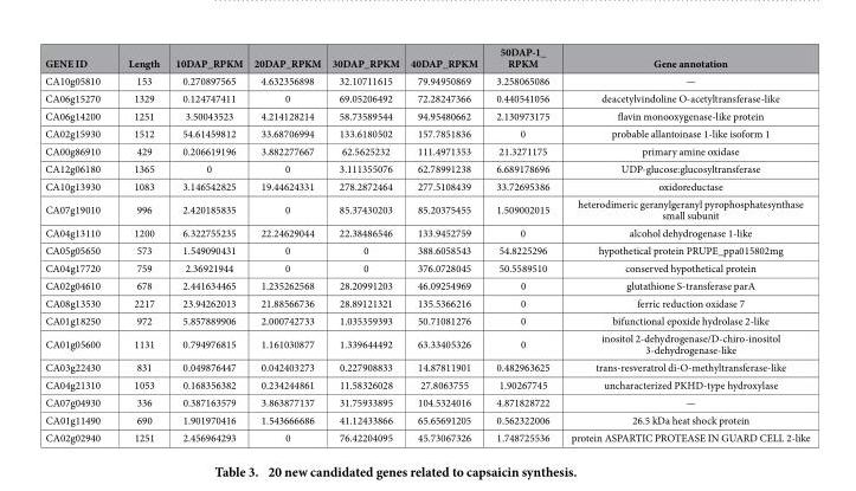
<table><thead><tr><td>GENE ID</td><td>Length</td><td>10DAP_RPKM</td><td>20DAP_RPKM</td><td>30DAP_RPKM</td><td>40DAP_RPKM</td><td>50DAP-1_ RPKM</td><td>Gene annotation</td></tr></thead><tbody><tr><td>CA10g05810</td><td>153</td><td>0.270897565</td><td>4.632356898</td><td>32.10711615</td><td>79.94950869</td><td>3.258065086</td><td>—</td></tr><tr><td>CA06g15270</td><td>1329</td><td>0.124747411</td><td>0</td><td>69.05206492</td><td>72.28247366</td><td>0.440541056</td><td>deacetylvindoline O-acetyltransferase-like</td></tr><tr><td>CA06g14200</td><td>1251</td><td>3.50043523</td><td>4.214128214</td><td>58.73589544</td><td>94.95480662</td><td>2.130973175</td><td>flavin monooxygenase-like protein</td></tr><tr><td>CA02g15930</td><td>1512</td><td>54.61459812</td><td>33.68706994</td><td>133.6180502</td><td>157.7851836</td><td>0</td><td>probable allantoinase 1-like isoform 1</td></tr><tr><td>CA00g86910</td><td>429</td><td>0.206619196</td><td>3.882277667</td><td>62.5625232</td><td>111.4971353</td><td>21.3271175</td><td>primary amine oxidase</td></tr><tr><td>CA12g06180</td><td>1365</td><td>0</td><td>0</td><td>3.111355076</td><td>62.78991238</td><td>6.689178696</td><td>UDP-glucose:glucosyltransferase</td></tr><tr><td>CA10g13930</td><td>1083</td><td>3.146542825</td><td>19.44624331</td><td>278.2872464</td><td>277.5108439</td><td>33.72695386</td><td>oxidoreductase</td></tr><tr><td>CA07g19010</td><td>996</td><td>2.420185835</td><td>0</td><td>85.37430203</td><td>85.20375455</td><td>1.509002015</td><td>heterodimeric geranylgeranyl pyrophosphatesynthase small subunit</td></tr><tr><td>CA04g13110</td><td>1200</td><td>6.322755235</td><td>22.24629044</td><td>22.38486546</td><td>133.9452759</td><td>0</td><td>alcohol dehydrogenase 1-like</td></tr><tr><td>CA05g05650</td><td>573</td><td>1.549090431</td><td>0</td><td>0</td><td>388.6058543</td><td>54.8225296</td><td>hypothetical protein PRUPE_ppa015802mg</td></tr><tr><td>CA04g17720</td><td>759</td><td>2.36921944</td><td>0</td><td>0</td><td>376.0728045</td><td>50.5589510</td><td>conserved hypothetical protein</td></tr><tr><td>CA02g04610</td><td>678</td><td>2.441634465</td><td>1.235262568</td><td>28.20991203</td><td>46.09254969</td><td>0</td><td>glutathione S-transferase parA</td></tr><tr><td>CA08g13530</td><td>2217</td><td>23.94262013</td><td>21.88566736</td><td>28.89121321</td><td>135.5366216</td><td>0</td><td>ferric reduction oxidase 7</td></tr><tr><td>CA01g18250</td><td>972</td><td>5.857889906</td><td>2.000742733</td><td>1.035359393</td><td>50.71081276</td><td>0</td><td>bifunctional epoxide hydrolase 2-like</td></tr><tr><td>CA01g05600</td><td>1131</td><td>0.794976815</td><td>1.161030877</td><td>1.339644492</td><td>63.33405326</td><td>0</td><td>inositol 2-dehydrogenase/D-chiro-inositol 3-dehydrogenase-like</td></tr><tr><td>CA03g22430</td><td>831</td><td>0.049876447</td><td>0.042403273</td><td>0.227908833</td><td>14.87811901</td><td>0.482963625</td><td>trans-resveratrol di-O-methyltransferase-like</td></tr><tr><td>CA04g21310</td><td>1053</td><td>0.168356382</td><td>0.234244861</td><td>11.58326028</td><td>27.8063755</td><td>1.90267745</td><td>uncharacterized PKHD-type hydroxylase</td></tr><tr><td>CA07g04930</td><td>336</td><td>0.387163579</td><td>3.863877137</td><td>31.75933895</td><td>104.5324016</td><td>4.871828722</td><td>—</td></tr><tr><td>CA01g11490</td><td>690</td><td>1.901970416</td><td>1.543666686</td><td>41.12433866</td><td>65.65691205</td><td>0.562322006</td><td>26.5 kDa heat shock protein</td></tr><tr><td>CA02g02940</td><td>1251</td><td>2.456964293</td><td>0</td><td>76.42204095</td><td>45.73067326</td><td>1.748725536</td><td>protein ASPARTIC PROTEASE IN GUARD CELL 2-like</td></tr></tbody></table>